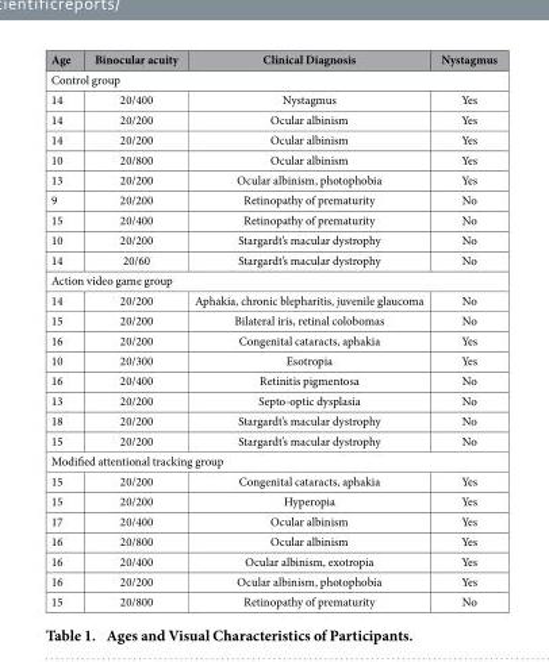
<table><thead><tr><td>Age</td><td>Binocular acuity</td><td>Clinical Diagnosis</td><td>Nystagmus</td></tr></thead><tbody><tr><td colspan="4">Control group</td></tr><tr><td>14</td><td>20/400</td><td>Nystagmus</td><td>Yes</td></tr><tr><td>14</td><td>20/200</td><td>Ocular albinism</td><td>Yes</td></tr><tr><td>14</td><td>20/200</td><td>Ocular albinism</td><td>Yes</td></tr><tr><td>10</td><td>20/800</td><td>Ocular albinism</td><td>Yes</td></tr><tr><td>13</td><td>20/200</td><td>Ocular albinism, photophobia</td><td>Yes</td></tr><tr><td>9</td><td>20/200</td><td>Retinopathy of prematurity</td><td>No</td></tr><tr><td>15</td><td>20/400</td><td>Retinopathy of prematurity</td><td>No</td></tr><tr><td>10</td><td>20/200</td><td>Stargardt’s macular dystrophy</td><td>No</td></tr><tr><td>14</td><td>20/60</td><td>Stargardt’s macular dystrophy</td><td>No</td></tr><tr><td colspan="4">Action video game group</td></tr><tr><td>14</td><td>20/200</td><td>Aphakia, chronic blepharitis, juvenile glaucoma</td><td>No</td></tr><tr><td>15</td><td>20/200</td><td>Bilateral iris, retinal colobomas</td><td>No</td></tr><tr><td>16</td><td>20/200</td><td>Congenital cataracts, aphakia</td><td>Yes</td></tr><tr><td>10</td><td>20/300</td><td>Esotropia</td><td>Yes</td></tr><tr><td>16</td><td>20/400</td><td>Retinitis pigmentosa</td><td>No</td></tr><tr><td>13</td><td>20/200</td><td>Septo-optic dysplasia</td><td>No</td></tr><tr><td>18</td><td>20/200</td><td>Stargardt’s macular dystrophy</td><td>No</td></tr><tr><td>15</td><td>20/200</td><td>Stargardt’s macular dystrophy</td><td>No</td></tr><tr><td colspan="4">Modified attentional tracking group</td></tr><tr><td>15</td><td>20/200</td><td>Congenital cataracts, aphakia</td><td>Yes</td></tr><tr><td>15</td><td>20/200</td><td>Hyperopia</td><td>Yes</td></tr><tr><td>17</td><td>20/400</td><td>Ocular albinism</td><td>Yes</td></tr><tr><td>16</td><td>20/800</td><td>Ocular albinism</td><td>Yes</td></tr><tr><td>16</td><td>20/400</td><td>Ocular albinism, exotropia</td><td>Yes</td></tr><tr><td>16</td><td>20/200</td><td>Ocular albinism, photophobia</td><td>Yes</td></tr><tr><td>15</td><td>20/800</td><td>Retinopathy of prematurity</td><td>No</td></tr></tbody></table>